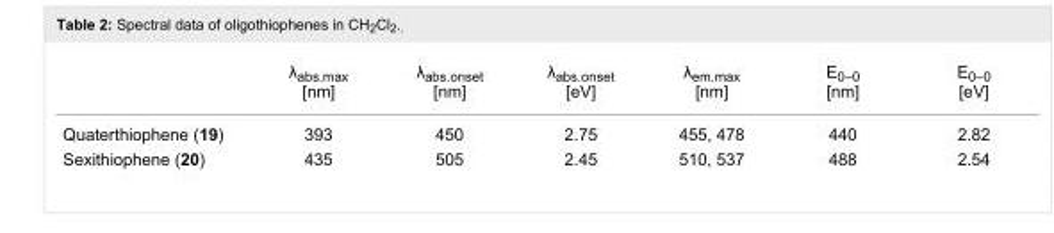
<table><thead><tr><td></td><td>λ<sub>abs.max</sub> [nm]</td><td>λ<sub>abs.onset</sub> [nm]</td><td>λ<sub>abs.onset</sub> [eV]</td><td>λ<sub>em.max</sub> [nm]</td><td>E<sub>0–0</sub> [nm]</td><td>E<sub>0–0</sub> [eV]</td></tr></thead><tbody><tr><td>Quaterthiophene (19)</td><td>393</td><td>450</td><td>2.75</td><td>455, 478</td><td>440</td><td>2.82</td></tr><tr><td>Sexithiophene (20)</td><td>435</td><td>505</td><td>2.45</td><td>510, 537</td><td>488</td><td>2.54</td></tr></tbody></table>